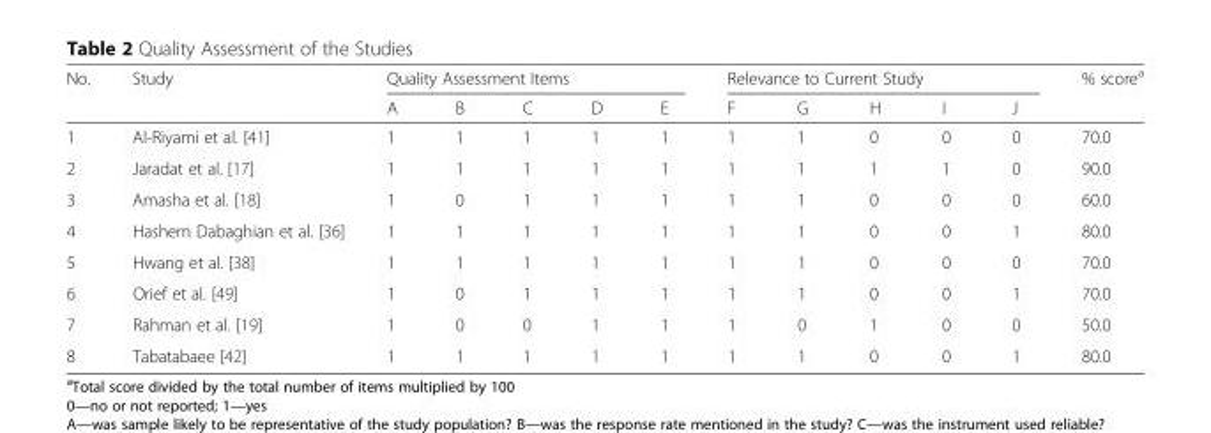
<table><thead><tr><td rowspan="2">No.</td><td rowspan="2">Study</td><td colspan="5">Quality Assessment Items</td><td colspan="5">Relevance to Current Study</td><td rowspan="2">% score<sup>a</sup></td></tr><tr><td>A</td><td>B</td><td>C</td><td>D</td><td>E</td><td>F</td><td>G</td><td>H</td><td>I</td><td>J</td></tr></thead><tbody><tr><td>1</td><td>Al-Riyami et al. [41]</td><td>1</td><td>1</td><td>1</td><td>1</td><td>1</td><td>1</td><td>1</td><td>0</td><td>0</td><td>0</td><td>70.0</td></tr><tr><td>2</td><td>Jaradat et al. [17]</td><td>1</td><td>1</td><td>1</td><td>1</td><td>1</td><td>1</td><td>1</td><td>1</td><td>1</td><td>0</td><td>90.0</td></tr><tr><td>3</td><td>Amasha et al. [18]</td><td>1</td><td>0</td><td>1</td><td>1</td><td>1</td><td>1</td><td>1</td><td>0</td><td>0</td><td>0</td><td>60.0</td></tr><tr><td>4</td><td>Hashem Dabaghian et al. [36]</td><td>1</td><td>1</td><td>1</td><td>1</td><td>1</td><td>1</td><td>1</td><td>0</td><td>0</td><td>1</td><td>80.0</td></tr><tr><td>5</td><td>Hwang et al. [38]</td><td>1</td><td>1</td><td>1</td><td>1</td><td>1</td><td>1</td><td>1</td><td>0</td><td>0</td><td>0</td><td>70.0</td></tr><tr><td>6</td><td>Orief et al. [49]</td><td>1</td><td>0</td><td>1</td><td>1</td><td>1</td><td>1</td><td>1</td><td>0</td><td>0</td><td>1</td><td>70.0</td></tr><tr><td>7</td><td>Rahman et al. [19]</td><td>1</td><td>0</td><td>0</td><td>1</td><td>1</td><td>1</td><td>0</td><td>1</td><td>0</td><td>0</td><td>50.0</td></tr><tr><td>8</td><td>Tabatabaee [42]</td><td>1</td><td>1</td><td>1</td><td>1</td><td>1</td><td>1</td><td>1</td><td>0</td><td>0</td><td>1</td><td>80.0</td></tr></tbody></table>